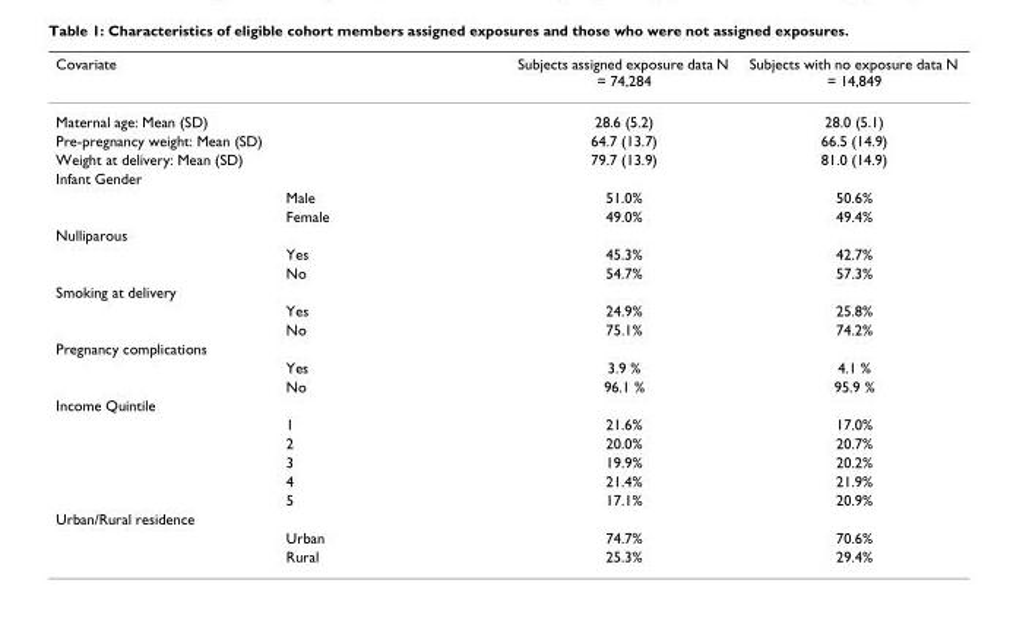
<table><thead><tr><td>Covariate</td><td></td><td>Subjects assigned exposure data N = 74,284</td><td>Subjects with no exposure data N = 14,849</td></tr></thead><tbody><tr><td>Maternal age: Mean (SD)</td><td></td><td>28.6 (5.2)</td><td>28.0 (5.1)</td></tr><tr><td>Pre-pregnancy weight: Mean (SD)</td><td></td><td>64.7 (13.7)</td><td>66.5 (14.9)</td></tr><tr><td>Weight at delivery: Mean (SD)</td><td></td><td>79.7 (13.9)</td><td>81.0 (14.9)</td></tr><tr><td colspan="4">Infant Gender</td></tr><tr><td></td><td>Male</td><td>51.0%</td><td>50.6%</td></tr><tr><td></td><td>Female</td><td>49.0%</td><td>49.4%</td></tr><tr><td colspan="4">Nulliparous</td></tr><tr><td></td><td>Yes</td><td>45.3%</td><td>42.7%</td></tr><tr><td></td><td>No</td><td>54.7%</td><td>57.3%</td></tr><tr><td colspan="4">Smoking at delivery</td></tr><tr><td></td><td>Yes</td><td>24.9%</td><td>25.8%</td></tr><tr><td></td><td>No</td><td>75.1%</td><td>74.2%</td></tr><tr><td colspan="4">Pregnancy complications</td></tr><tr><td></td><td>Yes</td><td>3.9 %</td><td>4.1 %</td></tr><tr><td></td><td>No</td><td>96.1 %</td><td>95.9 %</td></tr><tr><td colspan="4">Income Quintile</td></tr><tr><td></td><td>1</td><td>21.6%</td><td>17.0%</td></tr><tr><td></td><td>2</td><td>20.0%</td><td>20.7%</td></tr><tr><td></td><td>3</td><td>19.9%</td><td>20.2%</td></tr><tr><td></td><td>4</td><td>21.4%</td><td>21.9%</td></tr><tr><td></td><td>5</td><td>17.1%</td><td>20.9%</td></tr><tr><td colspan="4">Urban/Rural residence</td></tr><tr><td></td><td>Urban</td><td>74.7%</td><td>70.6%</td></tr><tr><td></td><td>Rural</td><td>25.3%</td><td>29.4%</td></tr></tbody></table>